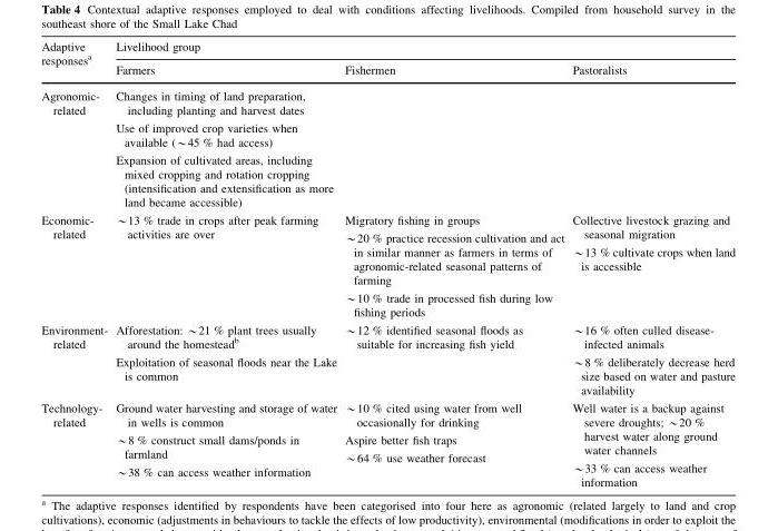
<table><thead><tr><td rowspan="2">Adaptive responsesa</td><td colspan="3">Livelihood group</td></tr><tr><td>Farmers</td><td>Fishermen</td><td>Pastoralists</td></tr></thead><tbody><tr><td>Agronomic- related</td><td>Changes in timing of land preparation, including planting and harvest dates Use of improved crop varieties when available (*45 % had access) Expansion of cultivated areas, including mixed cropping and rotation cropping (intensification and extensification as more land became accessible)</td><td></td><td></td></tr><tr><td>Economic- related</td><td>*13 % trade in crops after peak farming activities are over</td><td>Migratory fishing in groups *20 % practice recession cultivation and act in similar manner as farmers in terms of agronomic-related seasonal patterns of farming *10 % trade in processed fish during low fishing periods</td><td>Collective livestock grazing and seasonal migration *13 % cultivate crops when land is accessible</td></tr><tr><td>Environment- related</td><td>Afforestation: *21 % plant trees usually around the homesteadb Exploitation of seasonal floods near the Lake is common</td><td>*12 % identified seasonal floods as suitable for increasing fish yield</td><td>*16 % often culled disease- infected animals *8 % deliberately decrease herd size based on water and pasture availability</td></tr><tr><td>Technology- related</td><td>Ground water harvesting and storage of water in wells is common *8 % construct small dams/ponds in farmland *38 % can access weather information</td><td>*10 % cited using water from well occasionally for drinking Aspire better fish traps *64 % use weather forecast</td><td>Well water is a backup against severe droughts; *20 % harvest water along ground water channels *33 % can access weather information</td></tr></tbody></table>